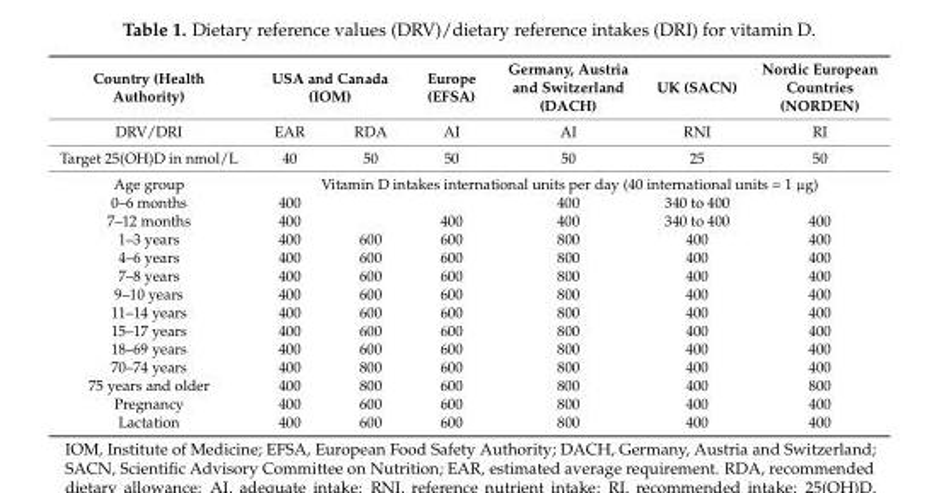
<table><thead><tr><td rowspan="2">Country (Health Authority) DRV/DRI</td><td colspan="2">USA and Canada (IOM)</td><td rowspan="2">Europe (EFSA) AI</td><td rowspan="2">Germany, Austria and Switzerland (DACH) AI</td><td rowspan="2">UK (SACN) RNI</td><td rowspan="2">Nordic European Countries (NORDEN) RI</td></tr><tr><td>EAR</td><td>RDA</td></tr></thead><tbody><tr><td>Target 25(OH)D in nmol/L</td><td>40</td><td>50</td><td>50</td><td>50</td><td>25</td><td>50</td></tr><tr><td>Age group</td><td colspan="6">Vitamin D intakes international units per day (40 international units = 1 µg)</td></tr><tr><td>0–6 months</td><td>400</td><td></td><td></td><td>400</td><td>340 to 400</td><td></td></tr><tr><td>7–12 months</td><td>400</td><td></td><td>400</td><td>400</td><td>340 to 400</td><td>400</td></tr><tr><td>1–3 years</td><td>400</td><td>600</td><td>600</td><td>800</td><td>400</td><td>400</td></tr><tr><td>4–6 years</td><td>400</td><td>600</td><td>600</td><td>800</td><td>400</td><td>400</td></tr><tr><td>7–8 years</td><td>400</td><td>600</td><td>600</td><td>800</td><td>400</td><td>400</td></tr><tr><td>9–10 years</td><td>400</td><td>600</td><td>600</td><td>800</td><td>400</td><td>400</td></tr><tr><td>11–14 years</td><td>400</td><td>600</td><td>600</td><td>800</td><td>400</td><td>400</td></tr><tr><td>15–17 years</td><td>400</td><td>600</td><td>600</td><td>800</td><td>400</td><td>400</td></tr><tr><td>18–69 years</td><td>400</td><td>600</td><td>600</td><td>800</td><td>400</td><td>400</td></tr><tr><td>70–74 years</td><td>400</td><td>800</td><td>600</td><td>800</td><td>400</td><td>400</td></tr><tr><td>75 years and older</td><td>400</td><td>800</td><td>600</td><td>800</td><td>400</td><td>800</td></tr><tr><td>Pregnancy</td><td>400</td><td>600</td><td>600</td><td>800</td><td>400</td><td>400</td></tr><tr><td>Lactation</td><td>400</td><td>600</td><td>600</td><td>800</td><td>400</td><td>400</td></tr></tbody></table>